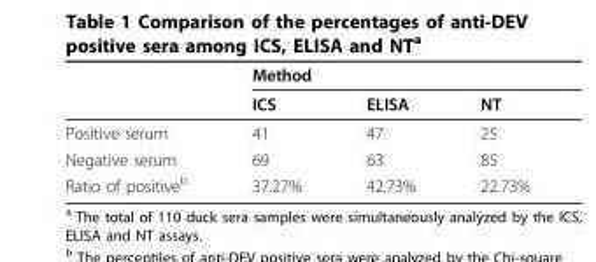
<table><thead><tr><td rowspan="2"></td><td colspan="3">Method</td></tr><tr><td>ICS</td><td>ELISA</td><td>NT</td></tr></thead><tbody><tr><td>Positive serum</td><td>41</td><td>47</td><td>25</td></tr><tr><td>Negative serum</td><td>69</td><td>63</td><td>85</td></tr><tr><td>Ratio of positive<sup>b</sup></td><td>37.27%</td><td>42.73%</td><td>22.73%</td></tr></tbody></table>